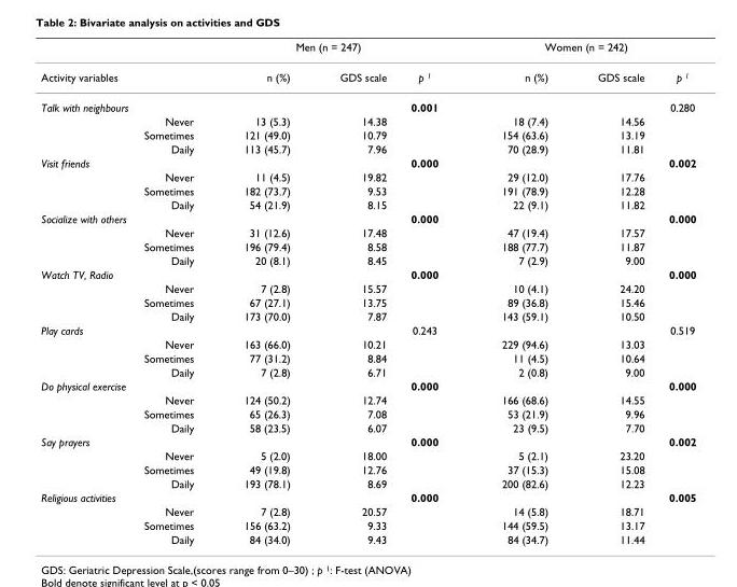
<table><thead><tr><td rowspan="2">Activity variables</td><td colspan="3">Men (n = 247)</td><td colspan="3">Women (n = 242)</td></tr><tr><td>n (%)</td><td>GDS scale</td><td>p <sup>1</sup></td><td>n (%)</td><td>GDS scale</td><td>p <sup>1</sup></td></tr></thead><tbody><tr><td>Talk with neighbours</td><td></td><td></td><td>0.001</td><td></td><td></td><td>0.280</td></tr><tr><td>Never</td><td>13 (5.3)</td><td>14.38</td><td></td><td>18 (7.4)</td><td>14.56</td><td></td></tr><tr><td>Sometimes</td><td>121 (49.0)</td><td>10.79</td><td></td><td>154 (63.6)</td><td>13.19</td><td></td></tr><tr><td>Daily</td><td>113 (45.7)</td><td>7.96</td><td></td><td>70 (28.9)</td><td>11.81</td><td></td></tr><tr><td>Visit friends</td><td></td><td></td><td>0.000</td><td></td><td></td><td>0.002</td></tr><tr><td>Never</td><td>11 (4.5)</td><td>19.82</td><td></td><td>29 (12.0)</td><td>17.76</td><td></td></tr><tr><td>Sometimes</td><td>182 (73.7)</td><td>9.53</td><td></td><td>191 (78.9)</td><td>12.28</td><td></td></tr><tr><td>Daily</td><td>54 (21.9)</td><td>8.15</td><td></td><td>22 (9.1)</td><td>11.82</td><td></td></tr><tr><td>Socialize with others</td><td></td><td></td><td>0.000</td><td></td><td></td><td>0.000</td></tr><tr><td>Never</td><td>31 (12.6)</td><td>17.48</td><td></td><td>47 (19.4)</td><td>17.57</td><td></td></tr><tr><td>Sometimes</td><td>196 (79.4)</td><td>8.58</td><td></td><td>188 (77.7)</td><td>11.87</td><td></td></tr><tr><td>Daily</td><td>20 (8.1)</td><td>8.45</td><td></td><td>7 (2.9)</td><td>9.00</td><td></td></tr><tr><td>Watch TV, Radio</td><td></td><td></td><td>0.000</td><td></td><td></td><td>0.000</td></tr><tr><td>Never</td><td>7 (2.8)</td><td>15.57</td><td></td><td>10 (4.1)</td><td>24.20</td><td></td></tr><tr><td>Sometimes</td><td>67 (27.1)</td><td>13.75</td><td></td><td>89 (36.8)</td><td>15.46</td><td></td></tr><tr><td>Daily</td><td>173 (70.0)</td><td>7.87</td><td></td><td>143 (59.1)</td><td>10.50</td><td></td></tr><tr><td>Play cards</td><td></td><td></td><td>0.243</td><td></td><td></td><td>0.519</td></tr><tr><td>Never</td><td>163 (66.0)</td><td>10.21</td><td></td><td>229 (94.6)</td><td>13.03</td><td></td></tr><tr><td>Sometimes</td><td>77 (31.2)</td><td>8.84</td><td></td><td>11 (4.5)</td><td>10.64</td><td></td></tr><tr><td>Daily</td><td>7 (2.8)</td><td>6.71</td><td></td><td>2 (0.8)</td><td>9.00</td><td></td></tr><tr><td>Do physical exercise</td><td></td><td></td><td>0.000</td><td></td><td></td><td>0.000</td></tr><tr><td>Never</td><td>124 (50.2)</td><td>12.74</td><td></td><td>166 (68.6)</td><td>14.55</td><td></td></tr><tr><td>Sometimes</td><td>65 (26.3)</td><td>7.08</td><td></td><td>53 (21.9)</td><td>9.96</td><td></td></tr><tr><td>Daily</td><td>58 (23.5)</td><td>6.07</td><td></td><td>23 (9.5)</td><td>7.70</td><td></td></tr><tr><td>Say prayers</td><td></td><td></td><td>0.000</td><td></td><td></td><td>0.002</td></tr><tr><td>Never</td><td>5 (2.0)</td><td>18.00</td><td></td><td>5 (2.1)</td><td>23.20</td><td></td></tr><tr><td>Sometimes</td><td>49 (19.8)</td><td>12.76</td><td></td><td>37 (15.3)</td><td>15.08</td><td></td></tr><tr><td>Daily</td><td>193 (78.1)</td><td>8.69</td><td></td><td>200 (82.6)</td><td>12.23</td><td></td></tr><tr><td>Religious activities</td><td></td><td></td><td>0.000</td><td></td><td></td><td>0.005</td></tr><tr><td>Never</td><td>7 (2.8)</td><td>20.57</td><td></td><td>14 (5.8)</td><td>18.71</td><td></td></tr><tr><td>Sometimes</td><td>156 (63.2)</td><td>9.33</td><td></td><td>144 (59.5)</td><td>13.17</td><td></td></tr><tr><td>Daily</td><td>84 (34.0)</td><td>9.43</td><td></td><td>84 (34.7)</td><td>11.44</td><td></td></tr></tbody></table>